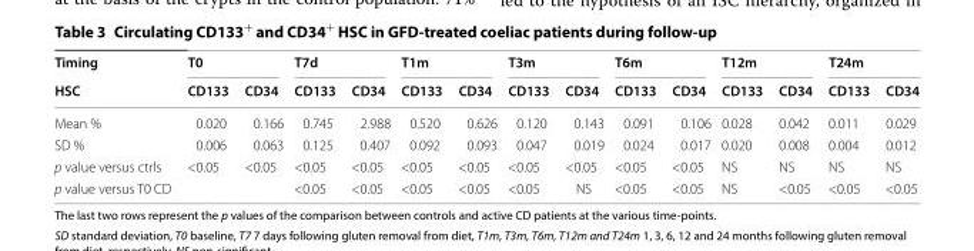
<table><thead><tr><td rowspan="2">Timing HSC</td><td colspan="2">T0</td><td colspan="2">T7d</td><td colspan="2">T1m</td><td colspan="2">T3m</td><td colspan="2">T6m</td><td colspan="2">T12m</td><td colspan="2">T24m</td></tr><tr><td>CD133</td><td>CD34</td><td>CD133</td><td>CD34</td><td>CD133</td><td>CD34</td><td>CD133</td><td>CD34</td><td>CD133</td><td>CD34</td><td>CD133</td><td>CD34</td><td>CD133</td><td>CD34</td></tr></thead><tbody><tr><td>Mean %</td><td>0.020</td><td>0.166</td><td>0.745</td><td>2.988</td><td>0.520</td><td>0.626</td><td>0.120</td><td>0.143</td><td>0.091</td><td>0.106</td><td>0.028</td><td>0.042</td><td>0.011</td><td>0.029</td></tr><tr><td>SD %</td><td>0.006</td><td>0.063</td><td>0.125</td><td>0.407</td><td>0.092</td><td>0.093</td><td>0.047</td><td>0.019</td><td>0.024</td><td>0.017</td><td>0.020</td><td>0.008</td><td>0.004</td><td>0.012</td></tr><tr><td>p value versus ctrls</td><td>&lt;0.05</td><td>&lt;0.05</td><td>&lt;0.05</td><td>&lt;0.05</td><td>&lt;0.05</td><td>&lt;0.05</td><td>&lt;0.05</td><td>&lt;0.05</td><td>&lt;0.05</td><td>&lt;0.05</td><td>NS</td><td>NS</td><td>NS</td><td>NS</td></tr><tr><td>p value versus T0 CD</td><td></td><td></td><td>&lt;0.05</td><td>&lt;0.05</td><td>&lt;0.05</td><td>&lt;0.05</td><td>&lt;0.05</td><td>NS</td><td>&lt;0.05</td><td>&lt;0.05</td><td>NS</td><td>&lt;0.05</td><td>&lt;0.05</td><td>&lt;0.05</td></tr></tbody></table>